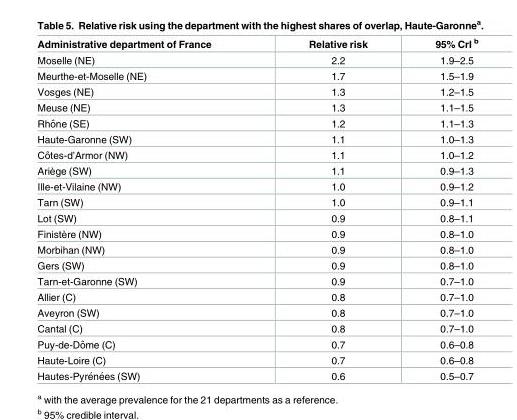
<table><thead><tr><td>Administrative department of France</td><td>Relative risk</td><td>95% CrI <sup>b</sup></td></tr></thead><tbody><tr><td>Moselle (NE)</td><td>2.2</td><td>1.9–2.5</td></tr><tr><td>Meurthe-et-Moselle (NE)</td><td>1.7</td><td>1.5–1.9</td></tr><tr><td>Vosges (NE)</td><td>1.3</td><td>1.2–1.5</td></tr><tr><td>Meuse (NE)</td><td>1.3</td><td>1.1–1.5</td></tr><tr><td>Rhoˆne (SE)</td><td>1.2</td><td>1.1–1.3</td></tr><tr><td>Haute-Garonne (SW)</td><td>1.1</td><td>1.0–1.3</td></tr><tr><td>Coˆtes-d’Armor (NW)</td><td>1.1</td><td>1.0–1.2</td></tr><tr><td>Ariège (SW)</td><td>1.1</td><td>0.9–1.3</td></tr><tr><td>Ille-et-Vilaine (NW)</td><td>1.0</td><td>0.9–1.2</td></tr><tr><td>Tarn (SW)</td><td>1.0</td><td>0.9–1.1</td></tr><tr><td>Lot (SW)</td><td>0.9</td><td>0.8–1.1</td></tr><tr><td>Finistère (NW)</td><td>0.9</td><td>0.8–1.0</td></tr><tr><td>Morbihan (NW)</td><td>0.9</td><td>0.8–1.0</td></tr><tr><td>Gers (SW)</td><td>0.9</td><td>0.8–1.0</td></tr><tr><td>Tarn-et-Garonne (SW)</td><td>0.9</td><td>0.7–1.0</td></tr><tr><td>Allier (C)</td><td>0.8</td><td>0.7–1.0</td></tr><tr><td>Aveyron (SW)</td><td>0.8</td><td>0.7–1.0</td></tr><tr><td>Cantal (C)</td><td>0.8</td><td>0.7–1.0</td></tr><tr><td>Puy-de-Doˆme (C)</td><td>0.7</td><td>0.6–0.8</td></tr><tr><td>Haute-Loire (C)</td><td>0.7</td><td>0.6–0.8</td></tr><tr><td>Hautes-Pyre´ne´es (SW)</td><td>0.6</td><td>0.5–0.7</td></tr></tbody></table>